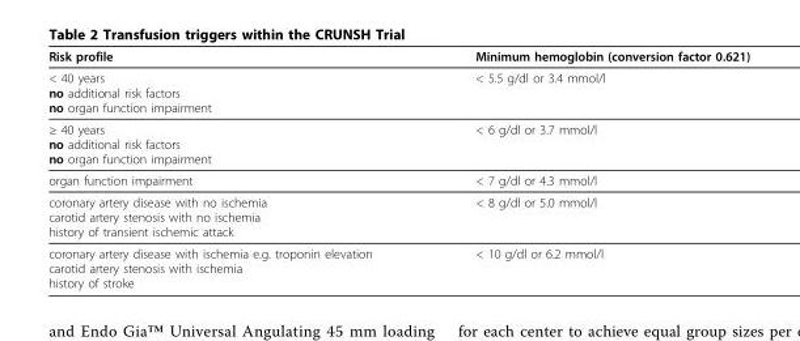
<table><thead><tr><td>Risk profile</td><td>Minimum hemoglobin (conversion factor 0.621)</td></tr></thead><tbody><tr><td>&lt; 40 years no additional risk factors no organ function impairment</td><td>&lt; 5.5 g/dl or 3.4 mmol/l</td></tr><tr><td>≥ 40 years no additional risk factors no organ function impairment</td><td>&lt; 6 g/dl or 3.7 mmol/l</td></tr><tr><td>organ function impairment</td><td>&lt; 7 g/dl or 4.3 mmol/l</td></tr><tr><td>coronary artery disease with no ischemia carotid artery stenosis with no ischemia history of transient ischemic attack</td><td>&lt; 8 g/dl or 5.0 mmol/l</td></tr><tr><td>coronary artery disease with ischemia e.g. troponin elevation carotid artery stenosis with ischemia history of stroke</td><td>&lt; 10 g/dl or 6.2 mmol/l</td></tr></tbody></table>